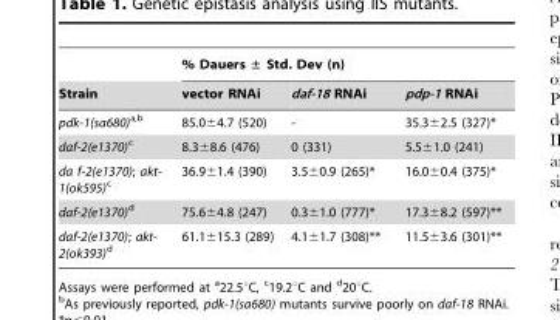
<table><thead><tr><td rowspan="2">Strain</td><td colspan="3">% Dauers ± Std. Dev (n)</td></tr><tr><td>vector RNAi</td><td>daf-18 RNAi</td><td>pdp-1 RNAi</td></tr></thead><tbody><tr><td>pdk-1(sa680)a<sup>,</sup>b</td><td>85.0±4.7 (520)</td><td>-</td><td>35.3±2.5 (327)*</td></tr><tr><td>daf-2(e1370)c</td><td>8.3±8.6 (476)</td><td>0 (331)</td><td>5.5±1.0 (241)</td></tr><tr><td>da f-2(e1370); akt- 1(ok595)c</td><td>36.9±1.4 (390)</td><td>3.5±0.9 (265)*</td><td>16.0±0.4 (375)*</td></tr><tr><td>daf-2(e1370)d</td><td>75.6±4.8 (247)</td><td>0.3±1.0 (777)*</td><td>17.3±8.2 (597)**</td></tr><tr><td>daf-2(e1370); akt- 2(ok393)d</td><td>61.1±15.3 (289)</td><td>4.1±1.7 (308)**</td><td>11.5±3.6 (301)**</td></tr></tbody></table>